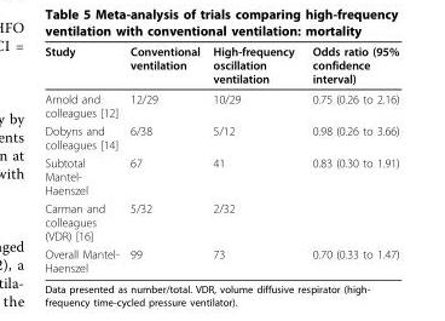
<table><thead><tr><td>Study</td><td>Conventional ventilation</td><td>High-frequency oscillation ventilation</td><td>Odds ratio (95% confidence interval)</td></tr></thead><tbody><tr><td>Arnold and colleagues [12]</td><td>12/29</td><td>10/29</td><td>0.75 (0.26 to 2.16)</td></tr><tr><td>Dobyns and colleagues [14]</td><td>6/38</td><td>5/12</td><td>0.98 (0.26 to 3.66)</td></tr><tr><td>Subtotal Mantel- Haenszel</td><td>67</td><td>41</td><td>0.83 (0.30 to 1.91)</td></tr><tr><td>Carman and colleagues (VDR) [16]</td><td>5/32</td><td>2/32</td><td></td></tr><tr><td>Overall Mantel- Haenszel</td><td>99</td><td>73</td><td>0.70 (0.33 to 1.47)</td></tr></tbody></table>